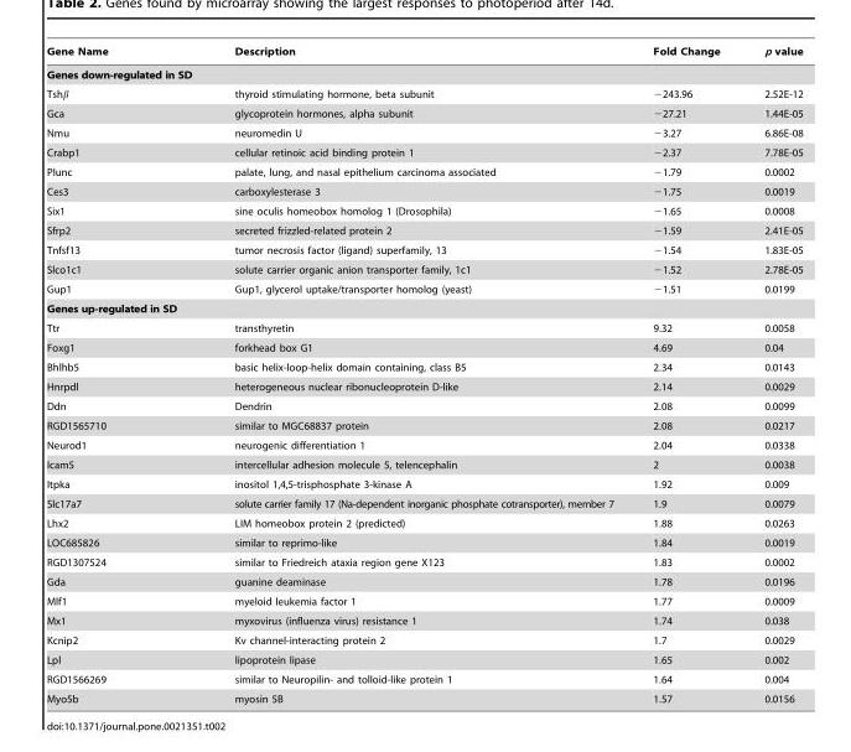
<table><thead><tr><td>Gene Name</td><td>Description</td><td>Fold Change</td><td>p value</td></tr></thead><tbody><tr><td colspan="4">Genes down-regulated in SD</td></tr><tr><td>Tshβ</td><td>thyroid stimulating hormone, beta subunit</td><td>−243.96</td><td>2.52E-12</td></tr><tr><td>Gca</td><td>glycoprotein hormones, alpha subunit</td><td>−27.21</td><td>1.44E-05</td></tr><tr><td>Nmu</td><td>neuromedin U</td><td>−3.27</td><td>6.86E-08</td></tr><tr><td>Crabp1</td><td>cellular retinoic acid binding protein 1</td><td>−2.37</td><td>7.78E-05</td></tr><tr><td>Plunc</td><td>palate, lung, and nasal epithelium carcinoma associated</td><td>−1.79</td><td>0.0002</td></tr><tr><td>Ces3</td><td>carboxylesterase 3</td><td>−1.75</td><td>0.0019</td></tr><tr><td>Six1</td><td>sine oculis homeobox homolog 1 (Drosophila)</td><td>−1.65</td><td>0.0008</td></tr><tr><td>Sfrp2</td><td>secreted frizzled-related protein 2</td><td>−1.59</td><td>2.41E-05</td></tr><tr><td>Tnfsf13</td><td>tumor necrosis factor (ligand) superfamily, 13</td><td>−1.54</td><td>1.83E-05</td></tr><tr><td>Slco1c1</td><td>solute carrier organic anion transporter family, 1c1</td><td>−1.52</td><td>2.78E-05</td></tr><tr><td>Gup1</td><td>Gup1, glycerol uptake/transporter homolog (yeast)</td><td>−1.51</td><td>0.0199</td></tr><tr><td colspan="4">Genes up-regulated in SD</td></tr><tr><td>Ttr</td><td>transthyretin</td><td>9.32</td><td>0.0058</td></tr><tr><td>Foxg1</td><td>forkhead box G1</td><td>4.69</td><td>0.04</td></tr><tr><td>Bhlhb5</td><td>basic helix-loop-helix domain containing, class B5</td><td>2.34</td><td>0.0143</td></tr><tr><td>Hnrpdl</td><td>heterogeneous nuclear ribonucleoprotein D-like</td><td>2.14</td><td>0.0029</td></tr><tr><td>Ddn</td><td>Dendrin</td><td>2.08</td><td>0.0099</td></tr><tr><td>RGD1565710</td><td>similar to MGC68837 protein</td><td>2.08</td><td>0.0217</td></tr><tr><td>Neurod1</td><td>neurogenic differentiation 1</td><td>2.04</td><td>0.0338</td></tr><tr><td>Icam5</td><td>intercellular adhesion molecule 5, telencephalin</td><td>2</td><td>0.0038</td></tr><tr><td>Itpka</td><td>inositol 1,4,5-trisphosphate 3-kinase A</td><td>1.92</td><td>0.009</td></tr><tr><td>Slc17a7</td><td>solute carrier family 17 (Na-dependent inorganic phosphate cotransporter), member 7</td><td>1.9</td><td>0.0079</td></tr><tr><td>Lhx2</td><td>LIM homeobox protein 2 (predicted)</td><td>1.88</td><td>0.0263</td></tr><tr><td>LOC685826</td><td>similar to reprimo-like</td><td>1.84</td><td>0.0019</td></tr><tr><td>RGD1307524</td><td>similar to Friedreich ataxia region gene X123</td><td>1.83</td><td>0.0002</td></tr><tr><td>Gda</td><td>guanine deaminase</td><td>1.78</td><td>0.0196</td></tr><tr><td>Mlf1</td><td>myeloid leukemia factor 1</td><td>1.77</td><td>0.0009</td></tr><tr><td>Mx1</td><td>myxovirus (influenza virus) resistance 1</td><td>1.74</td><td>0.038</td></tr><tr><td>Kcnip2</td><td>Kv channel-interacting protein 2</td><td>1.7</td><td>0.0029</td></tr><tr><td>Lpl</td><td>lipoprotein lipase</td><td>1.65</td><td>0.002</td></tr><tr><td>RGD1566269</td><td>similar to Neuropilin- and tolloid-like protein 1</td><td>1.64</td><td>0.004</td></tr><tr><td>Myo5b</td><td>myosin 5B</td><td>1.57</td><td>0.0156</td></tr></tbody></table>